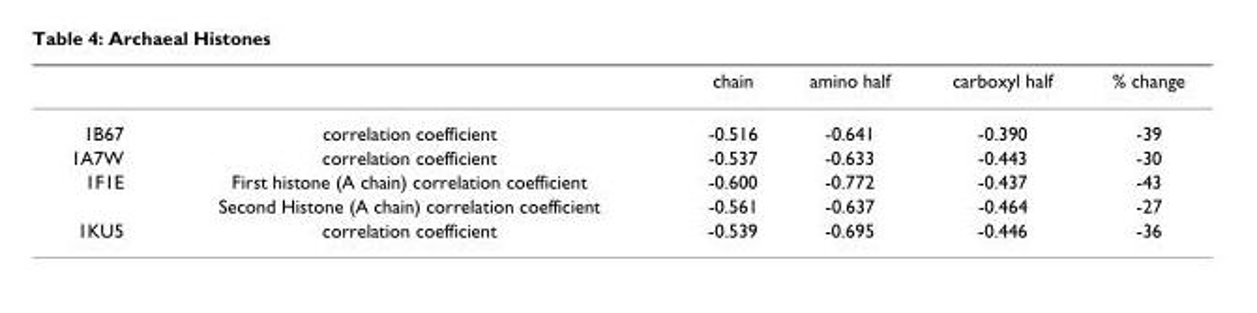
<table><thead><tr><td></td><td></td><td>chain</td><td>amino half</td><td>carboxyl half</td><td>% change</td></tr></thead><tbody><tr><td>1B67</td><td>correlation coefficient</td><td>-0.516</td><td>-0.641</td><td>-0.390</td><td>-39</td></tr><tr><td>1A7W</td><td>correlation coefficient</td><td>-0.537</td><td>-0.633</td><td>-0.443</td><td>-30</td></tr><tr><td rowspan="2">1F1E</td><td>First histone (A chain) correlation coefficient</td><td>-0.600</td><td>-0.772</td><td>-0.437</td><td>-43</td></tr><tr><td>Second Histone (A chain) correlation coefficient</td><td>-0.561</td><td>-0.637</td><td>-0.464</td><td>-27</td></tr><tr><td>1KU5</td><td>correlation coefficient</td><td>-0.539</td><td>-0.695</td><td>-0.446</td><td>-36</td></tr></tbody></table>